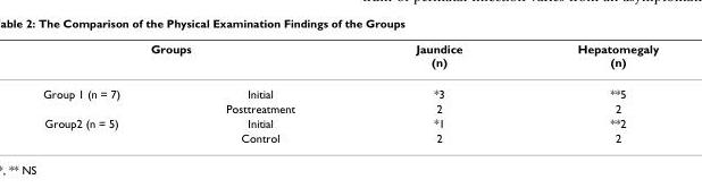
<table><thead><tr><td colspan="2">Groups</td><td rowspan="2">Jaundice (n) *3</td><td rowspan="2">Hepatomegaly (n) **5</td></tr><tr><td>Group 1 (n = 7)</td><td>Initial</td></tr></thead><tbody><tr><td></td><td>Posttreatment</td><td>2</td><td>2</td></tr><tr><td rowspan="2">Group2 (n = 5)</td><td>Initial</td><td>*1</td><td>**2</td></tr><tr><td>Control</td><td>2</td><td>2</td></tr></tbody></table>